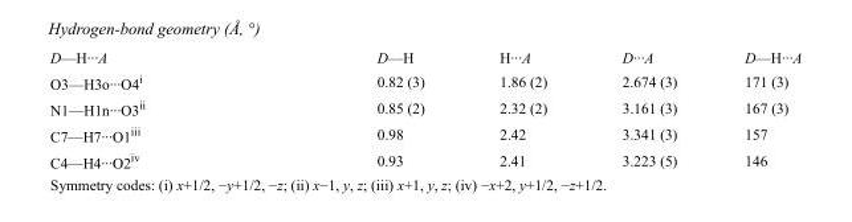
<table><tbody><tr><td>D—H···A</td><td>D—H</td><td>H···A</td><td>D···A</td><td>D—H···A</td></tr><tr><td>O3—H3o···O4<sup>i</sup></td><td>0.82 (3)</td><td>1.86 (2)</td><td>2.674 (3)</td><td>171 (3)</td></tr><tr><td>N1—H1n···O3<sup>ii</sup></td><td>0.85 (2)</td><td>2.32 (2)</td><td>3.161 (3)</td><td>167 (3)</td></tr><tr><td>C7—H7···O1<sup>iii</sup></td><td>0.98</td><td>2.42</td><td>3.341 (3)</td><td>157</td></tr><tr><td>C4—H4···O2<sup>iv</sup></td><td>0.93</td><td>2.41</td><td>3.223 (5)</td><td>146</td></tr></tbody></table>